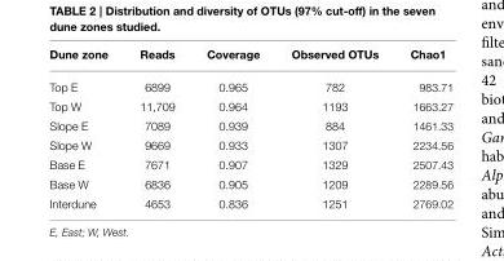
<table><thead><tr><td>Dune zone</td><td>Reads</td><td>Coverage</td><td>Observed OTUs</td><td>Chao1</td></tr></thead><tbody><tr><td>Top E</td><td>6899</td><td>0.965</td><td>782</td><td>983.71</td></tr><tr><td>Top W</td><td>11,709</td><td>0.964</td><td>1193</td><td>1663.27</td></tr><tr><td>Slope E</td><td>7089</td><td>0.939</td><td>884</td><td>1461.33</td></tr><tr><td>Slope W</td><td>9669</td><td>0.933</td><td>1307</td><td>2234.56</td></tr><tr><td>Base E</td><td>7671</td><td>0.907</td><td>1329</td><td>2507.43</td></tr><tr><td>Base W</td><td>6836</td><td>0.905</td><td>1209</td><td>2289.56</td></tr><tr><td>Interdune</td><td>4653</td><td>0.836</td><td>1251</td><td>2769.02</td></tr></tbody></table>